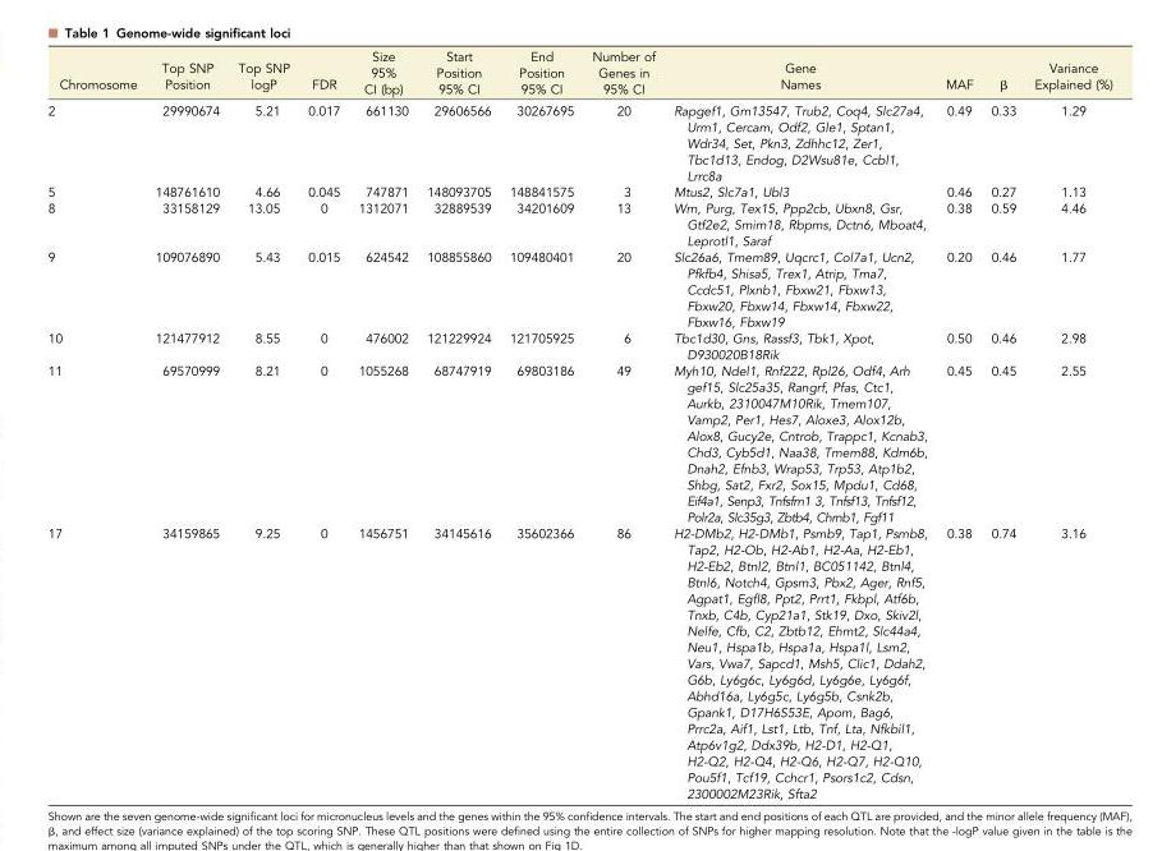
<table><thead><tr><td>Chromosome</td><td>Top SNP Position</td><td>Top SNP logP</td><td>FDR</td><td>Size 95% CI (bp)</td><td>Start Position 95% CI</td><td>End Position 95% CI</td><td>Number of Genes in 95% CI</td><td>Gene Names</td><td>MAF</td><td>β</td><td>Variance Explained (%)</td></tr></thead><tbody><tr><td>2</td><td>29990674</td><td>5.21</td><td>0.017</td><td>661130</td><td>29606566</td><td>30267695</td><td>20</td><td>Rapgef1, Gm13547, Trub2, Coq4, Slc27a4, Urm1, Cercam, Odf2, Gle1, Sptan1, Wdr34, Set, Pkn3, Zdhhc12, Zer1, Tbc1d13, Endog, D2Wsu81e, Ccbl1, Lrrc8a</td><td>0.49</td><td>0.33</td><td>1.29</td></tr><tr><td>5</td><td>148761610</td><td>4.66</td><td>0.045</td><td>747871</td><td>148093705</td><td>148841575</td><td>3</td><td>Mtus2, Slc7a1, Ubl3</td><td>0.46</td><td>0.27</td><td>1.13</td></tr><tr><td>8</td><td>33158129</td><td>13.05</td><td>0</td><td>1312071</td><td>32889539</td><td>34201609</td><td>13</td><td>Wrn, Purg, Tex15, Ppp2cb, Ubxn8, Gsr, Gtf2e2, Smim18, Rbpms, Dctn6, Mboat4, Leprotl1, Saraf</td><td>0.38</td><td>0.59</td><td>4.46</td></tr><tr><td>9</td><td>109076890</td><td>5.43</td><td>0.015</td><td>624542</td><td>108855860</td><td>109480401</td><td>20</td><td>Slc26a6, Tmem89, Uqcrc1, Col7a1, Ucn2, Pfkfb4, Shisa5, Trex1, Atrip, Tma7, Ccdc51, Plxnb1, Fbxw21, Fbxw13, Fbxw20, Fbxw14, Fbxw14, Fbxw22, Fbxw16, Fbxw19</td><td>0.20</td><td>0.46</td><td>1.77</td></tr><tr><td>10</td><td>121477912</td><td>8.55</td><td>0</td><td>476002</td><td>121229924</td><td>121705925</td><td>6</td><td>Tbc1d30, Gns, Rassf3, Tbk1, Xpot, D930020B18Rik</td><td>0.50</td><td>0.46</td><td>2.98</td></tr><tr><td>11</td><td>69570999</td><td>8.21</td><td>0</td><td>1055268</td><td>68747919</td><td>69803186</td><td>49</td><td>Myh10, Ndel1, Rnf222, Rpl26, Odf4, Arh gef15, Slc25a35, Rangrf, Pfas, Ctc1, Aurkb, 2310047M10Rik, Tmem107, Vamp2, Per1, Hes7, Aloxe3, Alox12b, Alox8, Gucy2e, Cntrob, Trappc1, Kcnab3, Chd3, Cyb5d1, Naa38, Tmem88, Kdm6b, Dnah2, Efnb3, Wrap53, Trp53, Atp1b2, Shbg, Sat2, Fxr2, Sox15, Mpdu1, Cd68, Eif4a1, Senp3, Tnfsfm1 3, Tnfsf13, Tnfsf12, Polr2a, Slc35g3, Zbtb4, Chrnb1, Fgf11</td><td>0.45</td><td>0.45</td><td>2.55</td></tr><tr><td>17</td><td>34159865</td><td>9.25</td><td>0</td><td>1456751</td><td>34145616</td><td>35602366</td><td>86</td><td>H2-DMb2, H2-DMb1, Psmb9, Tap1, Psmb8, Tap2, H2-Ob, H2-Ab1, H2-Aa, H2-Eb1, H2-Eb2, Btnl2, Btnl1, BC051142, Btnl4, Btnl6, Notch4, Gpsm3, Pbx2, Ager, Rnf5, Agpat1, Egfl8, Ppt2, Prrt1, Fkbpl, Atf6b, Tnxb, C4b, Cyp21a1, Stk19, Dxo, Skiv2l, Nelfe, Cfb, C2, Zbtb12, Ehmt2, Slc44a4, Neu1, Hspa1b, Hspa1a, Hspa1l, Lsm2, Vars, Vwa7, Sapcd1, Msh5, Clic1, Ddah2, G6b, Ly6g6c, Ly6g6d, Ly6g6e, Ly6g6f, Abhd16a, Ly6g5c, Ly6g5b, Csnk2b, Gpank1, D17H6S53E, Apom, Bag6, Prrc2a, Aif1, Lst1, Ltb, Tnf, Lta, Nfkbil1, Atp6v1g2, Ddx39b, H2-D1, H2-Q1, H2-Q2, H2-Q4, H2-Q6, H2-Q7, H2-Q10, Pou5f1, Tcf19, Cchcr1, Psors1c2, Cdsn, 2300002M23Rik, Sfta2</td><td>0.38</td><td>0.74</td><td>3.16</td></tr></tbody></table>